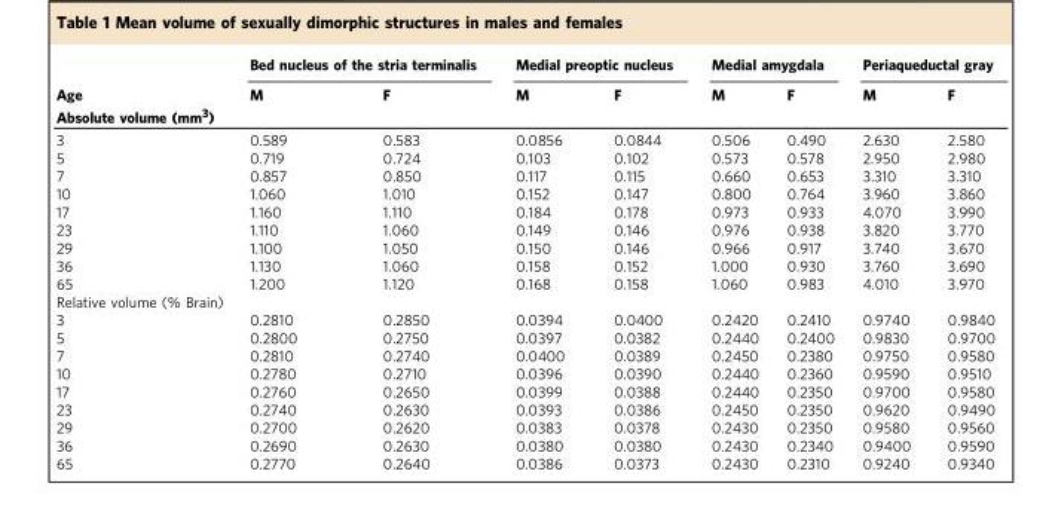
<table><thead><tr><td rowspan="2">Age</td><td colspan="2">Bed nucleus of the stria terminalis</td><td colspan="2">Medial preoptic nucleus</td><td colspan="2">Medial amygdala</td><td colspan="2">Periaqueductal gray</td></tr><tr><td>M</td><td>F</td><td>M</td><td>F</td><td>M</td><td>F</td><td>M</td><td>F</td></tr><tr><td colspan="9">Absolute volume (mm<sup>3</sup>)</td></tr></thead><tbody><tr><td>3</td><td>0.589</td><td>0.583</td><td>0.0856</td><td>0.0844</td><td>0.506</td><td>0.490</td><td>2.630</td><td>2.580</td></tr><tr><td>5</td><td>0.719</td><td>0.724</td><td>0.103</td><td>0.102</td><td>0.573</td><td>0.578</td><td>2.950</td><td>2.980</td></tr><tr><td>7</td><td>0.857</td><td>0.850</td><td>0.117</td><td>0.115</td><td>0.660</td><td>0.653</td><td>3.310</td><td>3.310</td></tr><tr><td>10</td><td>1.060</td><td>1.010</td><td>0.152</td><td>0.147</td><td>0.800</td><td>0.764</td><td>3.960</td><td>3.860</td></tr><tr><td>17</td><td>1.160</td><td>1.110</td><td>0.184</td><td>0.178</td><td>0.973</td><td>0.933</td><td>4.070</td><td>3.990</td></tr><tr><td>23</td><td>1.110</td><td>1.060</td><td>0.149</td><td>0.146</td><td>0.976</td><td>0.938</td><td>3.820</td><td>3.770</td></tr><tr><td>29</td><td>1.100</td><td>1.050</td><td>0.150</td><td>0.146</td><td>0.966</td><td>0.917</td><td>3.740</td><td>3.670</td></tr><tr><td>36</td><td>1.130</td><td>1.060</td><td>0.158</td><td>0.152</td><td>1.000</td><td>0.930</td><td>3.760</td><td>3.690</td></tr><tr><td>65</td><td>1.200</td><td>1.120</td><td>0.168</td><td>0.158</td><td>1.060</td><td>0.983</td><td>4.010</td><td>3.970</td></tr><tr><td colspan="9">Relative volume (% Brain)</td></tr><tr><td>3</td><td>0.2810</td><td>0.2850</td><td>0.0394</td><td>0.0400</td><td>0.2420</td><td>0.2410</td><td>0.9740</td><td>0.9840</td></tr><tr><td>5</td><td>0.2800</td><td>0.2750</td><td>0.0397</td><td>0.0382</td><td>0.2440</td><td>0.2400</td><td>0.9830</td><td>0.9700</td></tr><tr><td>7</td><td>0.2810</td><td>0.2740</td><td>0.0400</td><td>0.0389</td><td>0.2450</td><td>0.2380</td><td>0.9750</td><td>0.9580</td></tr><tr><td>10</td><td>0.2780</td><td>0.2710</td><td>0.0396</td><td>0.0390</td><td>0.2440</td><td>0.2360</td><td>0.9590</td><td>0.9510</td></tr><tr><td>17</td><td>0.2760</td><td>0.2650</td><td>0.0399</td><td>0.0388</td><td>0.2440</td><td>0.2350</td><td>0.9700</td><td>0.9580</td></tr><tr><td>23</td><td>0.2740</td><td>0.2630</td><td>0.0393</td><td>0.0386</td><td>0.2450</td><td>0.2350</td><td>0.9620</td><td>0.9490</td></tr><tr><td>29</td><td>0.2700</td><td>0.2620</td><td>0.0383</td><td>0.0378</td><td>0.2430</td><td>0.2350</td><td>0.9580</td><td>0.9560</td></tr><tr><td>36</td><td>0.2690</td><td>0.2630</td><td>0.0380</td><td>0.0380</td><td>0.2430</td><td>0.2340</td><td>0.9400</td><td>0.9590</td></tr><tr><td>65</td><td>0.2770</td><td>0.2640</td><td>0.0386</td><td>0.0373</td><td>0.2430</td><td>0.2310</td><td>0.9240</td><td>0.9340</td></tr></tbody></table>